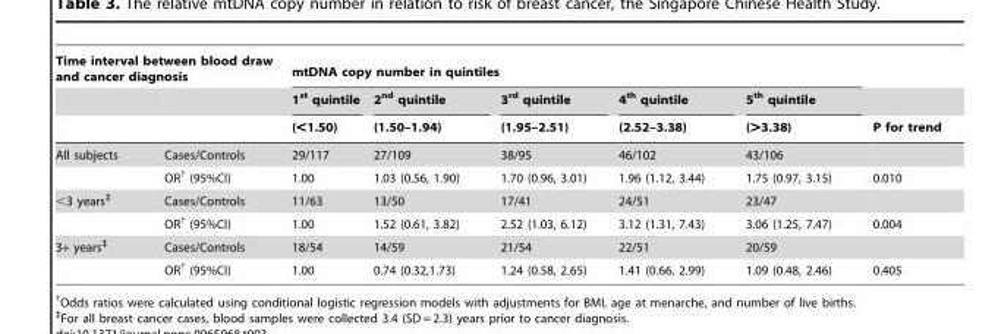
<table><thead><tr><td colspan="2">Time interval between blood draw and cancer diagnosis</td><td colspan="5">mtDNA copy number in quintiles</td><td rowspan="3">P for trend</td></tr><tr><td rowspan="2"></td><td rowspan="2"></td><td rowspan="2">1<sup>st</sup> quintile (&lt;1.50)</td><td rowspan="2">2<sup>nd</sup> quintile (1.50–1.94)</td><td rowspan="2">3<sup>rd</sup> quintile (1.95–2.51)</td><td rowspan="2">4<sup>th</sup> quintile (2.52–3.38)</td><td rowspan="2">5<sup>th</sup> quintile (&gt;3.38)</td></tr><tr></tr></thead><tbody><tr><td rowspan="2">All subjects</td><td>Cases/Controls</td><td>29/117</td><td>27/109</td><td>38/95</td><td>46/102</td><td>43/106</td><td></td></tr><tr><td>OR† (95%CI)</td><td>1.00</td><td>1.03 (0.56, 1.90)</td><td>1.70 (0.96, 3.01)</td><td>1.96 (1.12, 3.44)</td><td>1.75 (0.97, 3.15)</td><td>0.010</td></tr><tr><td rowspan="2">&lt;3 years‡</td><td>Cases/Controls</td><td>11/63</td><td>13/50</td><td>17/41</td><td>24/51</td><td>23/47</td><td></td></tr><tr><td>OR† (95%CI)</td><td>1.00</td><td>1.52 (0.61, 3.82)</td><td>2.52 (1.03, 6.12)</td><td>3.12 (1.31, 7.43)</td><td>3.06 (1.25, 7.47)</td><td>0.004</td></tr><tr><td rowspan="2">3+ years‡</td><td>Cases/Controls</td><td>18/54</td><td>14/59</td><td>21/54</td><td>22/51</td><td>20/59</td><td></td></tr><tr><td>OR† (95%CI)</td><td>1.00</td><td>0.74 (0.32,1.73)</td><td>1.24 (0.58, 2.65)</td><td>1.41 (0.66, 2.99)</td><td>1.09 (0.48, 2.46)</td><td>0.405</td></tr></tbody></table>